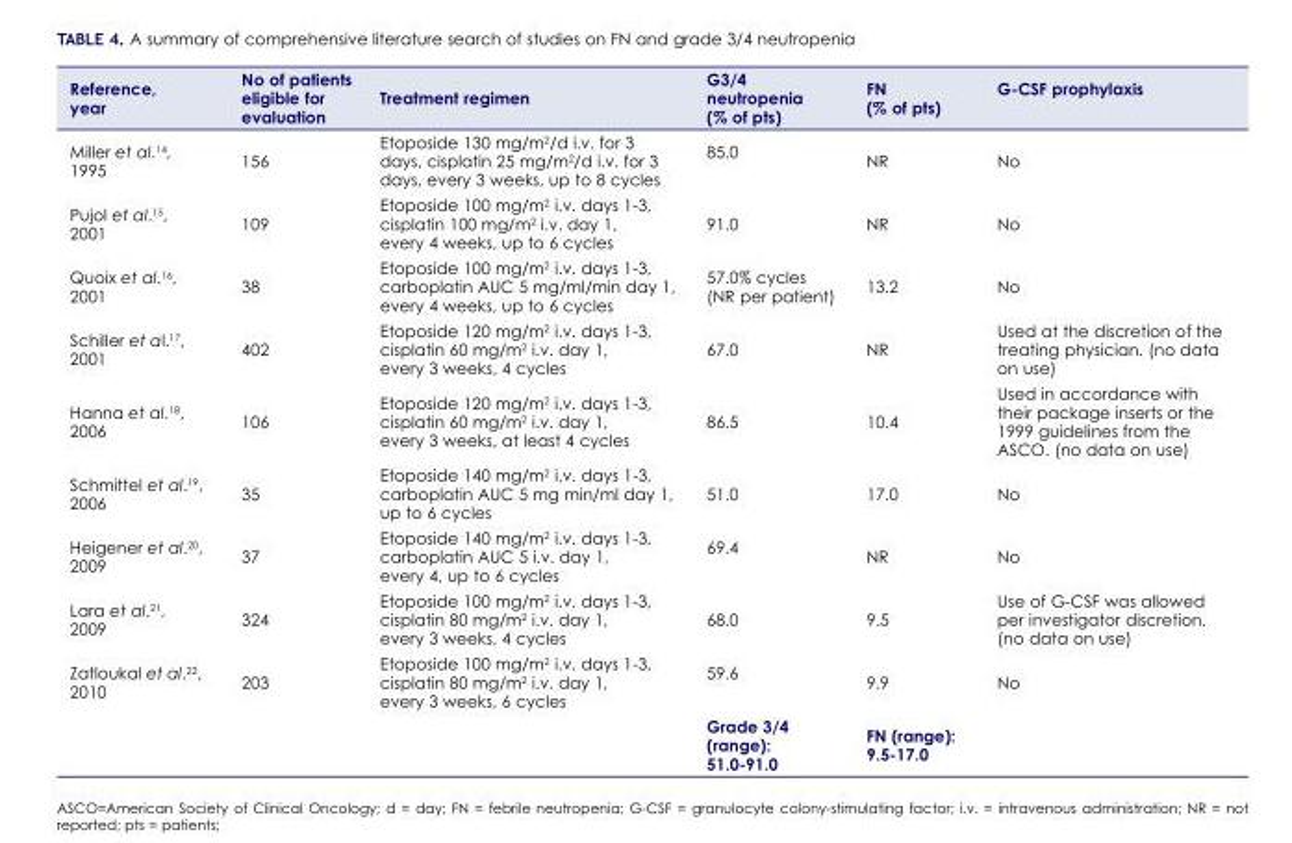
<table><thead><tr><td>Reference, year</td><td>No of patients eligible for evaluation</td><td>Treatment regimen</td><td>G3/4 neutropenia (% of pts)</td><td>FN (% of pts)</td><td>G-CSF prophylaxis</td></tr></thead><tbody><tr><td>Miller et al.<sup>14</sup>, 1995</td><td>156</td><td>Etoposide 130 mg/m<sup>2</sup>/d i.v. for 3 days, cisplatin 25 mg/m<sup>2</sup>/d i.v. for 3 days, every 3 weeks, up to 8 cycles</td><td>85.0</td><td>NR</td><td>No</td></tr><tr><td>Pujol et al.<sup>15</sup>, 2001</td><td>109</td><td>Etoposide 100 mg/m<sup>2</sup> i.v. days 1-3, cisplatin 100 mg/m<sup>2</sup> i.v. day 1, every 4 weeks, up to 6 cycles</td><td>91.0</td><td>NR</td><td>No</td></tr><tr><td>Quoix et al.<sup>16</sup>, 2001</td><td>38</td><td>Etoposide 100 mg/m<sup>2</sup> i.v. days 1-3, carboplatin AUC 5 mg/ml/min day 1, every 4 weeks, up to 6 cycles</td><td>57.0% cycles (NR per patient)</td><td>13.2</td><td>No</td></tr><tr><td>Schiller et al.<sup>17</sup>, 2001</td><td>402</td><td>Etoposide 120 mg/m<sup>2</sup> i.v. days 1-3, cisplatin 60 mg/m<sup>2</sup> i.v. day 1, every 3 weeks, 4 cycles</td><td>67.0</td><td>NR</td><td>Used at the discretion of the treating physician. (no data on use)</td></tr><tr><td>Hanna et al.<sup>18</sup>, 2006</td><td>106</td><td>Etoposide 120 mg/m<sup>2</sup> i.v. days 1-3, cisplatin 60 mg/m<sup>2</sup> i.v. day 1, every 3 weeks, at least 4 cycles</td><td>86.5</td><td>10.4</td><td>Used in accordance with their package inserts or the 1999 guidelines from the ASCO. (no data on use)</td></tr><tr><td>Schmittel et al.<sup>19</sup>, 2006</td><td>35</td><td>Etoposide 140 mg/m<sup>2</sup> i.v. days 1-3, carboplatin AUC 5 mg min/ml day 1, up to 6 cycles</td><td>51.0</td><td>17.0</td><td>No</td></tr><tr><td>Heigener et al.<sup>20</sup>, 2009</td><td>37</td><td>Etoposide 140 mg/m<sup>2</sup> i.v. days 1-3, carboplatin AUC 5 i.v. day 1, every 4, up to 6 cycles</td><td>69.4</td><td>NR</td><td>No</td></tr><tr><td>Lara et al.<sup>21</sup>, 2009</td><td>324</td><td>Etoposide 100 mg/m<sup>2</sup> i.v. days 1-3, cisplatin 80 mg/m<sup>2</sup> i.v. day 1, every 3 weeks, 4 cycles</td><td>68.0</td><td>9.5</td><td>Use of G-CSF was allowed per investigator discretion. (no data on use)</td></tr><tr><td rowspan="2">Zatloukal et al.<sup>22</sup>, 2010</td><td>203</td><td>Etoposide 100 mg/m<sup>2</sup> i.v. days 1-3, cisplatin 80 mg/m<sup>2</sup> i.v. day 1, every 3 weeks, 6 cycles</td><td>59.6</td><td>9.9</td><td>No</td></tr><tr><td></td><td></td><td>Grade 3/4 (range): 51.0-91.0</td><td>FN (range): 9.5-17.0</td><td></td></tr></tbody></table>